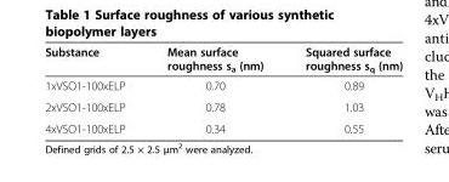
<table><thead><tr><td>Substance</td><td>Mean surface roughness s<sub>a</sub> (nm)</td><td>Squared surface roughness s<sub>q</sub> (nm)</td></tr></thead><tbody><tr><td>1xVSO1-100xELP</td><td>0.70</td><td>0.89</td></tr><tr><td>2xVSO1-100xELP</td><td>0.78</td><td>1.03</td></tr><tr><td>4xVSO1-100xELP</td><td>0.34</td><td>0.55</td></tr></tbody></table>